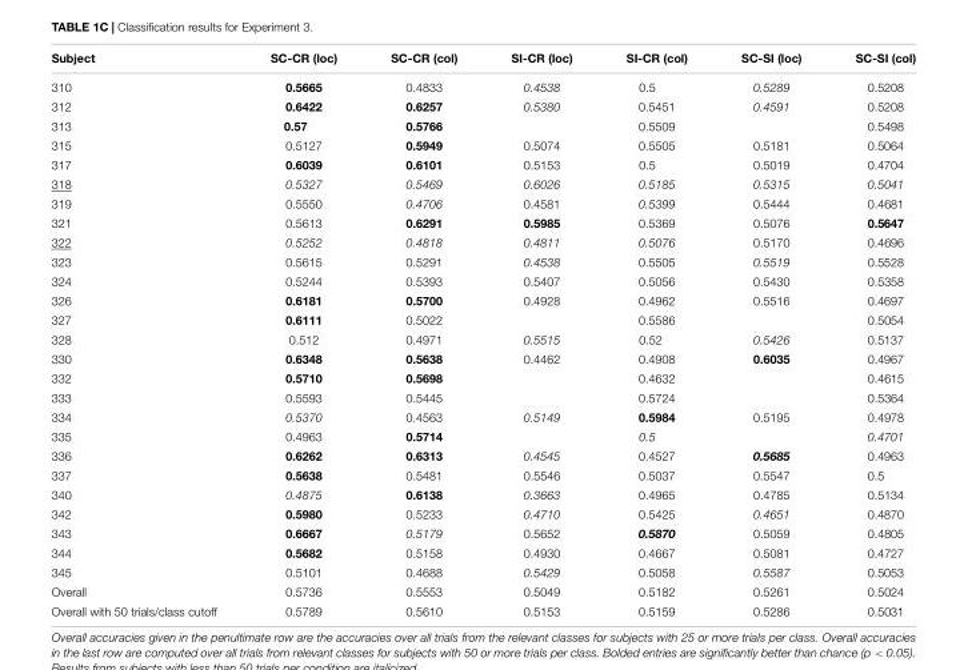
<table><thead><tr><td>Subject</td><td>SC-CR (loc)</td><td>SC-CR (col)</td><td>SI-CR (loc)</td><td>SI-CR (col)</td><td>SC-SI (loc)</td><td>SC-SI (col)</td></tr></thead><tbody><tr><td>310</td><td>0.5665</td><td>0.4833</td><td>0.4538</td><td>0.5</td><td>0.5289</td><td>0.5208</td></tr><tr><td>312</td><td>0.6422</td><td>0.6257</td><td>0.5380</td><td>0.5451</td><td>0.4591</td><td>0.5208</td></tr><tr><td>313</td><td>0.57</td><td>0.5766</td><td></td><td>0.5509</td><td></td><td>0.5498</td></tr><tr><td>315</td><td>0.5127</td><td>0.5949</td><td>0.5074</td><td>0.5505</td><td>0.5181</td><td>0.5064</td></tr><tr><td>317</td><td>0.6039</td><td>0.6101</td><td>0.5153</td><td>0.5</td><td>0.5019</td><td>0.4704</td></tr><tr><td>318</td><td>0.5327</td><td>0.5469</td><td>0.6026</td><td>0.5185</td><td>0.5315</td><td>0.5041</td></tr><tr><td>319</td><td>0.5550</td><td>0.4706</td><td>0.4581</td><td>0.5399</td><td>0.5444</td><td>0.4681</td></tr><tr><td>321</td><td>0.5613</td><td>0.6291</td><td>0.5985</td><td>0.5369</td><td>0.5076</td><td>0.5647</td></tr><tr><td>322</td><td>0.5252</td><td>0.4818</td><td>0.4811</td><td>0.5076</td><td>0.5170</td><td>0.4696</td></tr><tr><td>323</td><td>0.5615</td><td>0.5291</td><td>0.4538</td><td>0.5505</td><td>0.5519</td><td>0.5528</td></tr><tr><td>324</td><td>0.5244</td><td>0.5393</td><td>0.5407</td><td>0.5056</td><td>0.5430</td><td>0.5358</td></tr><tr><td>326</td><td>0.6181</td><td>0.5700</td><td>0.4928</td><td>0.4962</td><td>0.5516</td><td>0.4697</td></tr><tr><td>327</td><td>0.6111</td><td>0.5022</td><td></td><td>0.5586</td><td></td><td>0.5054</td></tr><tr><td>328</td><td>0.512</td><td>0.4971</td><td>0.5515</td><td>0.52</td><td>0.5426</td><td>0.5137</td></tr><tr><td>330</td><td>0.6348</td><td>0.5638</td><td>0.4462</td><td>0.4908</td><td>0.6035</td><td>0.4967</td></tr><tr><td>332</td><td>0.5710</td><td>0.5698</td><td></td><td>0.4632</td><td></td><td>0.4615</td></tr><tr><td>333</td><td>0.5593</td><td>0.5445</td><td></td><td>0.5724</td><td></td><td>0.5364</td></tr><tr><td>334</td><td>0.5370</td><td>0.4563</td><td>0.5149</td><td>0.5984</td><td>0.5195</td><td>0.4978</td></tr><tr><td>335</td><td>0.4963</td><td>0.5714</td><td></td><td>0.5</td><td></td><td>0.4701</td></tr><tr><td>336</td><td>0.6262</td><td>0.6313</td><td>0.4545</td><td>0.4527</td><td>0.5685</td><td>0.4963</td></tr><tr><td>337</td><td>0.5638</td><td>0.5481</td><td>0.5546</td><td>0.5037</td><td>0.5547</td><td>0.5</td></tr><tr><td>340</td><td>0.4875</td><td>0.6138</td><td>0.3663</td><td>0.4965</td><td>0.4785</td><td>0.5134</td></tr><tr><td>342</td><td>0.5980</td><td>0.5233</td><td>0.4710</td><td>0.5425</td><td>0.4651</td><td>0.4870</td></tr><tr><td>343</td><td>0.6667</td><td>0.5179</td><td>0.5652</td><td>0.5870</td><td>0.5059</td><td>0.4805</td></tr><tr><td>344</td><td>0.5682</td><td>0.5158</td><td>0.4930</td><td>0.4667</td><td>0.5081</td><td>0.4727</td></tr><tr><td>345</td><td>0.5101</td><td>0.4688</td><td>0.5429</td><td>0.5058</td><td>0.5587</td><td>0.5053</td></tr><tr><td>Overall</td><td>0.5736</td><td>0.5553</td><td>0.5049</td><td>0.5182</td><td>0.5261</td><td>0.5024</td></tr><tr><td>Overall with 50 trials/class cutoff</td><td>0.5789</td><td>0.5610</td><td>0.5153</td><td>0.5159</td><td>0.5286</td><td>0.5031</td></tr></tbody></table>